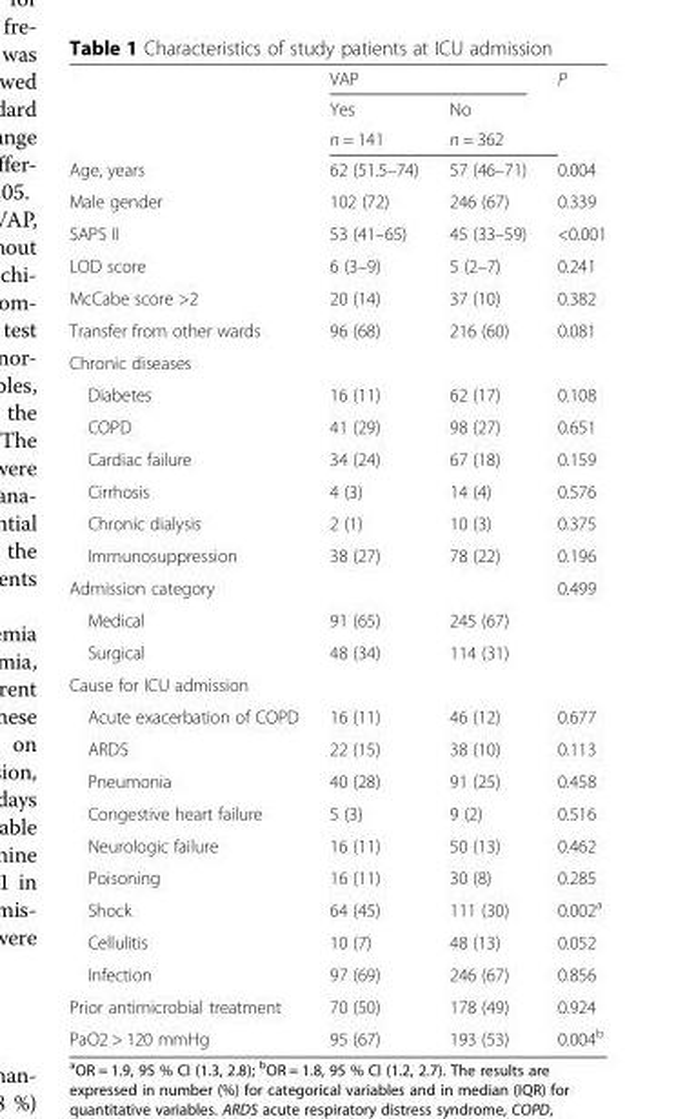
<table><thead><tr><td rowspan="3"></td><td colspan="2">VAP</td><td rowspan="3">P</td></tr><tr><td rowspan="2">Yes n = 141</td><td rowspan="2">No n = 362</td></tr><tr></tr></thead><tbody><tr><td>Age, years</td><td>62 (51.5–74)</td><td>57 (46–71)</td><td>0.004</td></tr><tr><td>Male gender</td><td>102 (72)</td><td>246 (67)</td><td>0.339</td></tr><tr><td>SAPS II</td><td>53 (41–65)</td><td>45 (33–59)</td><td>&lt;0.001</td></tr><tr><td>LOD score</td><td>6 (3–9)</td><td>5 (2–7)</td><td>0.241</td></tr><tr><td>McCabe score &gt;2</td><td>20 (14)</td><td>37 (10)</td><td>0.382</td></tr><tr><td>Transfer from other wards</td><td>96 (68)</td><td>216 (60)</td><td>0.081</td></tr><tr><td colspan="4">Chronic diseases</td></tr><tr><td>Diabetes</td><td>16 (11)</td><td>62 (17)</td><td>0.108</td></tr><tr><td>COPD</td><td>41 (29)</td><td>98 (27)</td><td>0.651</td></tr><tr><td>Cardiac failure</td><td>34 (24)</td><td>67 (18)</td><td>0.159</td></tr><tr><td>Cirrhosis</td><td>4 (3)</td><td>14 (4)</td><td>0.576</td></tr><tr><td>Chronic dialysis</td><td>2 (1)</td><td>10 (3)</td><td>0.375</td></tr><tr><td>Immunosuppression</td><td>38 (27)</td><td>78 (22)</td><td>0.196</td></tr><tr><td>Admission category</td><td></td><td></td><td>0.499</td></tr><tr><td>Medical</td><td>91 (65)</td><td>245 (67)</td><td></td></tr><tr><td>Surgical</td><td>48 (34)</td><td>114 (31)</td><td></td></tr><tr><td colspan="4">Cause for ICU admission</td></tr><tr><td>Acute exacerbation of COPD</td><td>16 (11)</td><td>46 (12)</td><td>0.677</td></tr><tr><td>ARDS</td><td>22 (15)</td><td>38 (10)</td><td>0.113</td></tr><tr><td>Pneumonia</td><td>40 (28)</td><td>91 (25)</td><td>0.458</td></tr><tr><td>Congestive heart failure</td><td>5 (3)</td><td>9 (2)</td><td>0.516</td></tr><tr><td>Neurologic failure</td><td>16 (11)</td><td>50 (13)</td><td>0.462</td></tr><tr><td>Poisoning</td><td>16 (11)</td><td>30 (8)</td><td>0.285</td></tr><tr><td>Shock</td><td>64 (45)</td><td>111 (30)</td><td>0.002<sup>a</sup></td></tr><tr><td>Cellulitis</td><td>10 (7)</td><td>48 (13)</td><td>0.052</td></tr><tr><td>Infection</td><td>97 (69)</td><td>246 (67)</td><td>0.856</td></tr><tr><td>Prior antimicrobial treatment</td><td>70 (50)</td><td>178 (49)</td><td>0.924</td></tr><tr><td>PaO2 &gt; 120 mmHg</td><td>95 (67)</td><td>193 (53)</td><td>0.004<sup>b</sup></td></tr></tbody></table>